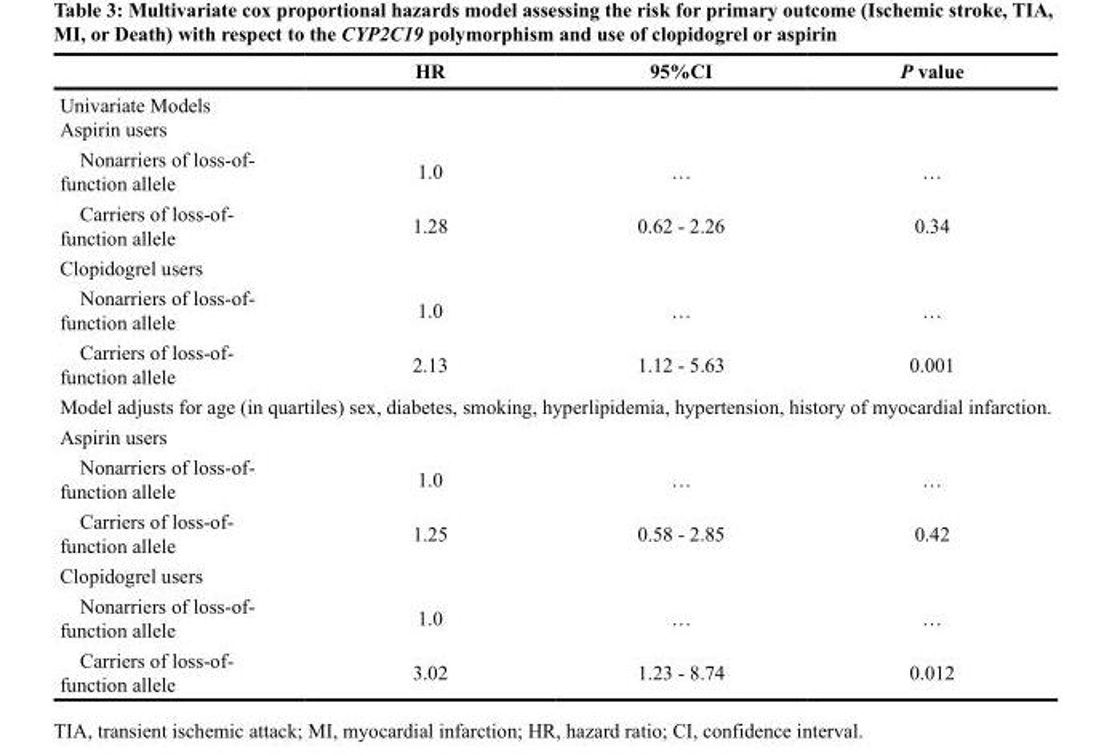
<table><thead><tr><td></td><td>HR</td><td>95%CI</td><td>P value</td></tr></thead><tbody><tr><td colspan="4">Univariate Models Aspirin users</td></tr><tr><td>Nonarriers of loss-of- function allele</td><td>1.0</td><td>…</td><td>…</td></tr><tr><td>Carriers of loss-of- function allele</td><td>1.28</td><td>0.62 - 2.26</td><td>0.34</td></tr><tr><td colspan="4">Clopidogrel users</td></tr><tr><td>Nonarriers of loss-of- function allele</td><td>1.0</td><td>…</td><td>…</td></tr><tr><td>Carriers of loss-of- function allele</td><td>2.13</td><td>1.12 - 5.63</td><td>0.001</td></tr><tr><td colspan="4">Model adjusts for age (in quartiles) sex, diabetes, smoking, hyperlipidemia, hypertension, history of myocardial infarction.</td></tr><tr><td colspan="4">Aspirin users</td></tr><tr><td>Nonarriers of loss-of- function allele</td><td>1.0</td><td>…</td><td>…</td></tr><tr><td>Carriers of loss-of- function allele</td><td>1.25</td><td>0.58 - 2.85</td><td>0.42</td></tr><tr><td colspan="4">Clopidogrel users</td></tr><tr><td>Nonarriers of loss-of- function allele</td><td>1.0</td><td>…</td><td>…</td></tr><tr><td>Carriers of loss-of- function allele</td><td>3.02</td><td>1.23 - 8.74</td><td>0.012</td></tr></tbody></table>